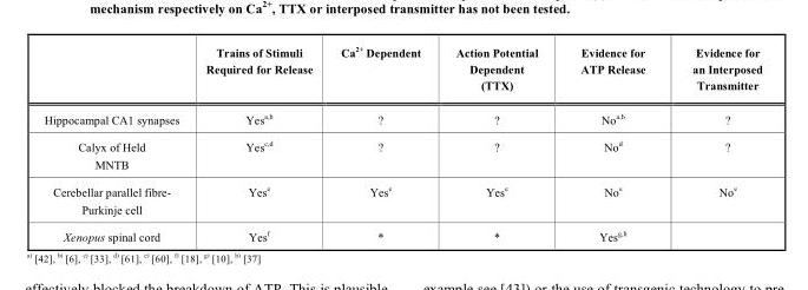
<table><thead><tr><td></td><td>Trains of Stimuli Required for Release</td><td>Ca<sup>2+</sup> Dependent</td><td>Action Potential Dependent (TTX)</td><td>Evidence for ATP Release</td><td>Evidence for an Interposed Transmitter</td></tr></thead><tbody><tr><td>Hippocampal CA1 synapses</td><td>Yes<sup>a</sup>,<sup>b</sup></td><td>?</td><td>?</td><td>No<sup>a</sup>,<sup>b</sup></td><td>?</td></tr><tr><td>Calyx of Held MNTB</td><td>Yes<sup>c</sup>,<sup>d</sup></td><td>?</td><td>?</td><td>No<sup>d</sup></td><td>?</td></tr><tr><td>Cerebellar parallel fibre- Purkinje cell</td><td>Yes<sup>e</sup></td><td>Yes<sup>e</sup></td><td>Yes<sup>e</sup></td><td>No<sup>e</sup></td><td>No<sup>e</sup></td></tr><tr><td>Xenopus spinal cord</td><td>Yes<sup>f</sup></td><td>*</td><td>*</td><td>Yes<sup>g</sup>,<sup>h</sup></td><td></td></tr></tbody></table>